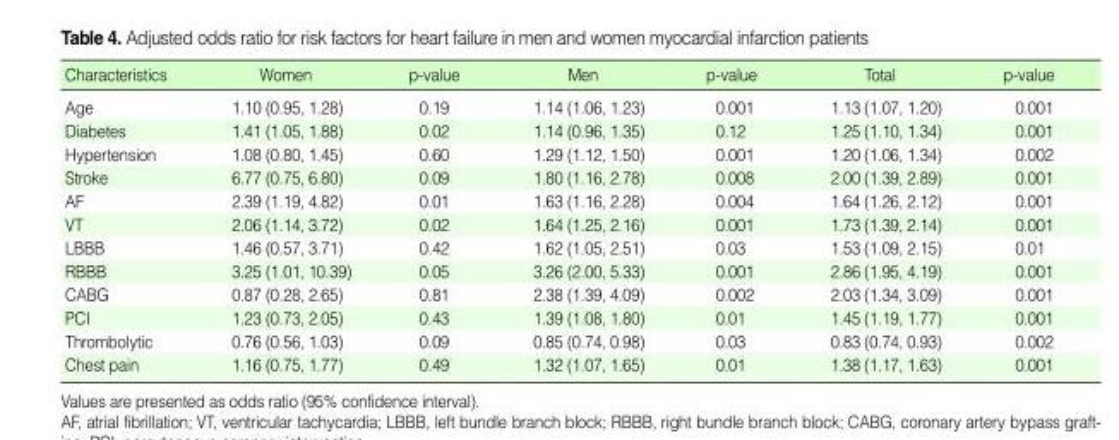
<table><thead><tr><td>Characteristics</td><td>Women</td><td>p-value</td><td>Men</td><td>p-value</td><td>Total</td><td>p-value</td></tr></thead><tbody><tr><td>Age</td><td>1.10 (0.95, 1.28)</td><td>0.19</td><td>1.14 (1.06, 1.23)</td><td>0.001</td><td>1.13 (1.07, 1.20)</td><td>0.001</td></tr><tr><td>Diabetes</td><td>1.41 (1.05, 1.88)</td><td>0.02</td><td>1.14 (0.96, 1.35)</td><td>0.12</td><td>1.25 (1.10, 1.34)</td><td>0.001</td></tr><tr><td>Hypertension</td><td>1.08 (0.80, 1.45)</td><td>0.60</td><td>1.29 (1.12, 1.50)</td><td>0.001</td><td>1.20 (1.06, 1.34)</td><td>0.002</td></tr><tr><td>Stroke</td><td>6.77 (0.75, 6.80)</td><td>0.09</td><td>1.80 (1.16, 2.78)</td><td>0.008</td><td>2.00 (1.39, 2.89)</td><td>0.001</td></tr><tr><td>AF</td><td>2.39 (1.19, 4.82)</td><td>0.01</td><td>1.63 (1.16, 2.28)</td><td>0.004</td><td>1.64 (1.26, 2.12)</td><td>0.001</td></tr><tr><td>VT</td><td>2.06 (1.14, 3.72)</td><td>0.02</td><td>1.64 (1.25, 2.16)</td><td>0.001</td><td>1.73 (1.39, 2.14)</td><td>0.001</td></tr><tr><td>LBBB</td><td>1.46 (0.57, 3.71)</td><td>0.42</td><td>1.62 (1.05, 2.51)</td><td>0.03</td><td>1.53 (1.09, 2.15)</td><td>0.01</td></tr><tr><td>RBBB</td><td>3.25 (1.01, 10.39)</td><td>0.05</td><td>3.26 (2.00, 5.33)</td><td>0.001</td><td>2.86 (1.95, 4.19)</td><td>0.001</td></tr><tr><td>CABG</td><td>0.87 (0.28, 2.65)</td><td>0.81</td><td>2.38 (1.39, 4.09)</td><td>0.002</td><td>2.03 (1.34, 3.09)</td><td>0.001</td></tr><tr><td>PCI</td><td>1.23 (0.73, 2.05)</td><td>0.43</td><td>1.39 (1.08, 1.80)</td><td>0.01</td><td>1.45 (1.19, 1.77)</td><td>0.001</td></tr><tr><td>Thrombolytic</td><td>0.76 (0.56, 1.03)</td><td>0.09</td><td>0.85 (0.74, 0.98)</td><td>0.03</td><td>0.83 (0.74, 0.93)</td><td>0.002</td></tr><tr><td>Chest pain</td><td>1.16 (0.75, 1.77)</td><td>0.49</td><td>1.32 (1.07, 1.65)</td><td>0.01</td><td>1.38 (1.17, 1.63)</td><td>0.001</td></tr></tbody></table>